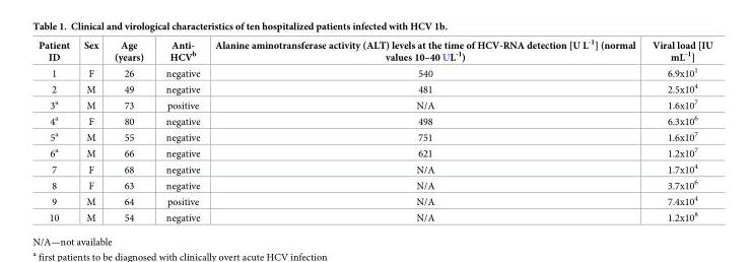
<table><thead><tr><td>Patient ID</td><td>Sex</td><td>Age (years)</td><td>Anti- HCV<sup>b</sup></td><td>Alanine aminotransferase activity (ALT) levels at the time of HCV-RNA detection [U L<sup>-1</sup>] (normal values 10–40 UL<sup>-1</sup>)</td><td>Viral load [IU mL<sup>-1</sup>]</td></tr></thead><tbody><tr><td>1</td><td>F</td><td>26</td><td>negative</td><td>540</td><td>6.9x10<sup>1</sup></td></tr><tr><td>2</td><td>M</td><td>49</td><td>negative</td><td>481</td><td>2.5x10<sup>4</sup></td></tr><tr><td>3<sup>a</sup></td><td>M</td><td>73</td><td>positive</td><td>N/A</td><td>1.6x10<sup>7</sup></td></tr><tr><td>4<sup>a</sup></td><td>F</td><td>80</td><td>negative</td><td>498</td><td>6.3x10<sup>6</sup></td></tr><tr><td>5<sup>a</sup></td><td>M</td><td>55</td><td>negative</td><td>751</td><td>1.6x10<sup>7</sup></td></tr><tr><td>6<sup>a</sup></td><td>M</td><td>66</td><td>negative</td><td>621</td><td>1.2x10<sup>7</sup></td></tr><tr><td>7</td><td>F</td><td>68</td><td>negative</td><td>N/A</td><td>1.7x10<sup>4</sup></td></tr><tr><td>8</td><td>F</td><td>63</td><td>negative</td><td>N/A</td><td>3.7x10<sup>6</sup></td></tr><tr><td>9</td><td>M</td><td>64</td><td>positive</td><td>N/A</td><td>7.4x10<sup>4</sup></td></tr><tr><td>10</td><td>M</td><td>54</td><td>negative</td><td>N/A</td><td>1.2x10<sup>8</sup></td></tr></tbody></table>